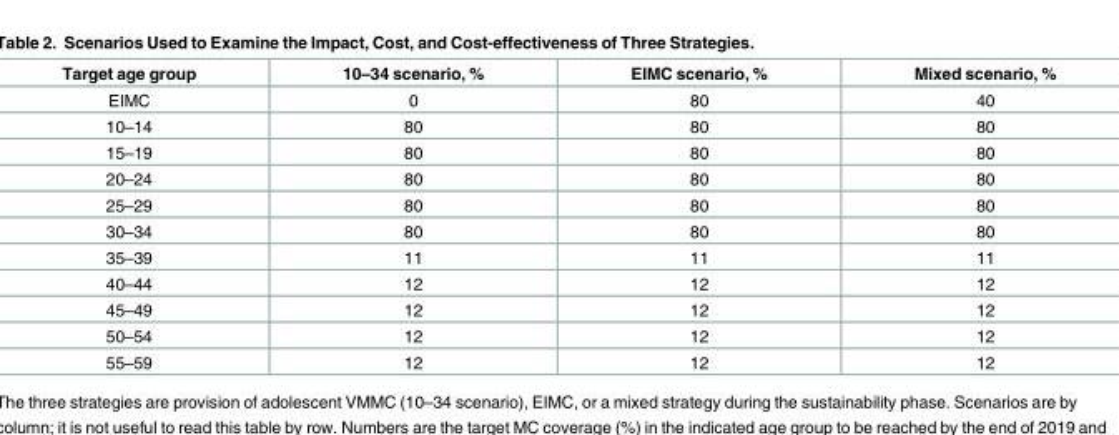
<table><thead><tr><td>Target age group</td><td>10–34 scenario, %</td><td>EIMC scenario, %</td><td>Mixed scenario, %</td></tr></thead><tbody><tr><td>EIMC</td><td>0</td><td>80</td><td>40</td></tr><tr><td>10–14</td><td>80</td><td>80</td><td>80</td></tr><tr><td>15–19</td><td>80</td><td>80</td><td>80</td></tr><tr><td>20–24</td><td>80</td><td>80</td><td>80</td></tr><tr><td>25–29</td><td>80</td><td>80</td><td>80</td></tr><tr><td>30–34</td><td>80</td><td>80</td><td>80</td></tr><tr><td>35–39</td><td>11</td><td>11</td><td>11</td></tr><tr><td>40–44</td><td>12</td><td>12</td><td>12</td></tr><tr><td>45–49</td><td>12</td><td>12</td><td>12</td></tr><tr><td>50–54</td><td>12</td><td>12</td><td>12</td></tr><tr><td>55–59</td><td>12</td><td>12</td><td>12</td></tr></tbody></table>